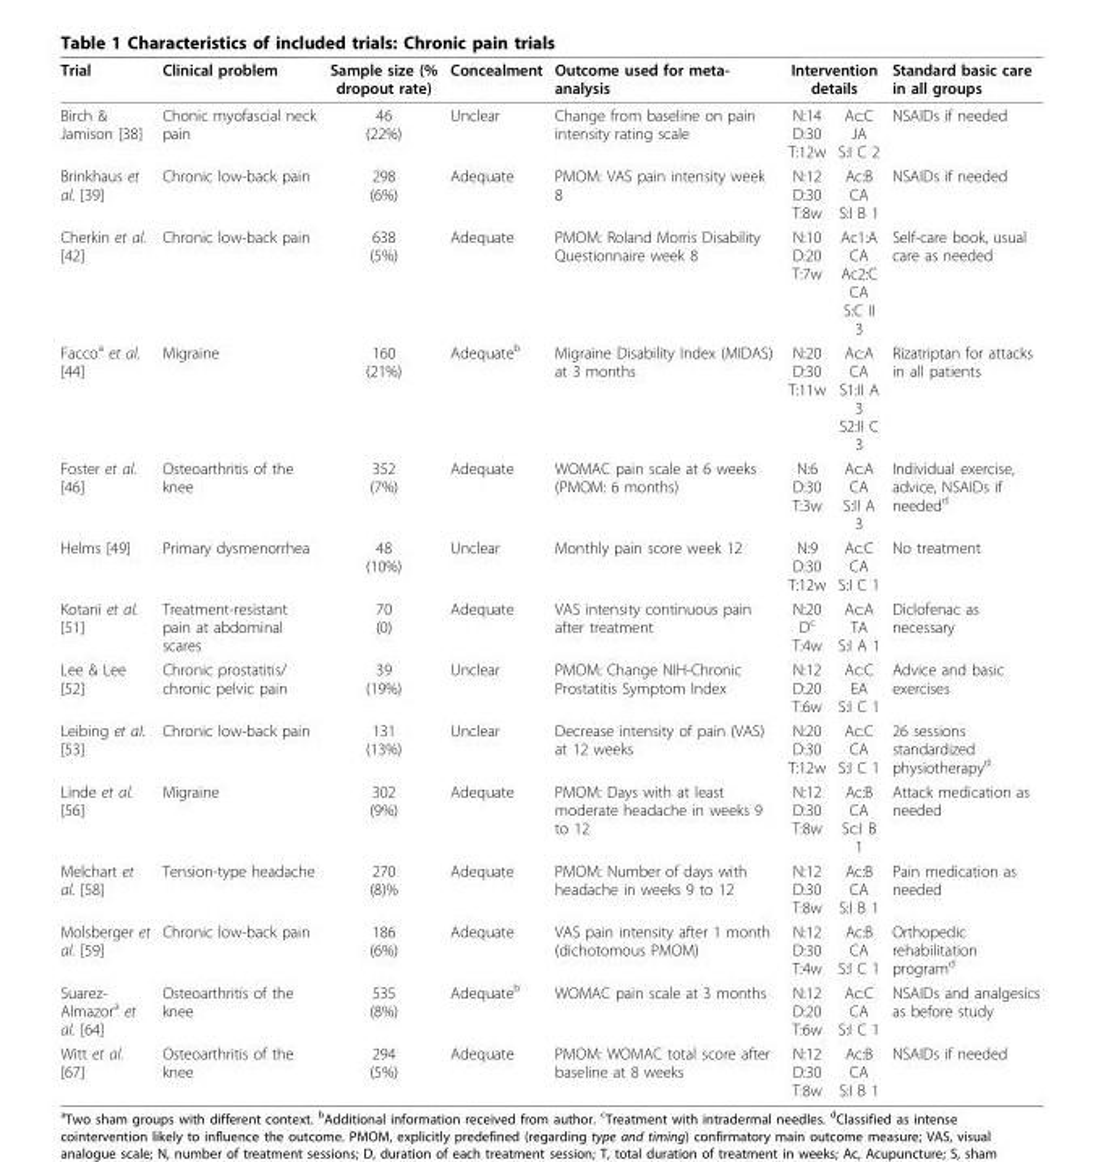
<table><thead><tr><td rowspan="2">Trial Birch &amp; Jamison [38]</td><td rowspan="2">Clinical problem Chonic myofascial neck pain</td><td rowspan="2">Sample size (% dropout rate) 46 (22%)</td><td rowspan="2">Concealment Unclear</td><td rowspan="2">Outcome used for meta- analysis Change from baseline on pain intensity rating scale</td><td colspan="2">Intervention details</td><td rowspan="2">Standard basic care in all groups NSAIDs if needed</td></tr><tr><td>N:14 D:30 T:12w</td><td>Ac:C JA S:I C 2</td></tr></thead><tbody><tr><td>Brinkhaus et al. [39]</td><td>Chronic low-back pain</td><td>298 (6%)</td><td>Adequate</td><td>PMOM: VAS pain intensity week 8</td><td>N:12 D:30 T:8w</td><td>Ac:B CA S:I B 1</td><td>NSAIDs if needed</td></tr><tr><td>Cherkin et al. [42]</td><td>Chronic low-back pain</td><td>638 (5%)</td><td>Adequate</td><td>PMOM: Roland Morris Disability Questionnaire week 8</td><td>N:10 D:20 T:7w</td><td>Ac1:A CA Ac2:C CA S:C II 3</td><td>Self-care book, usual care as needed</td></tr><tr><td>Facco<sup>a</sup> et al. [44]</td><td>Migraine</td><td>160 (21%)</td><td>Adequate<sup>b</sup></td><td>Migraine Disability Index (MIDAS) at 3 months</td><td>N:20 D:30 T:11w</td><td>Ac:A CA S1:II A 3 S2:II C 3</td><td>Rizatriptan for attacks in all patients</td></tr><tr><td>Foster et al. [46]</td><td>Osteoarthritis of the knee</td><td>352 (7%)</td><td>Adequate</td><td>WOMAC pain scale at 6 weeks (PMOM: 6 months)</td><td>N:6 D:30 T:3w</td><td>Ac:A CA S:II A 3</td><td>Individual exercise, advice, NSAIDs if needed<sup>d</sup></td></tr><tr><td>Helms [49]</td><td>Primary dysmenorrhea</td><td>48 (10%)</td><td>Unclear</td><td>Monthly pain score week 12</td><td>N:9 D:30 T:12w</td><td>Ac:C CA S:I C 1</td><td>No treatment</td></tr><tr><td>Kotani et al. [51]</td><td>Treatment-resistant pain at abdominal scares</td><td>70 (0)</td><td>Adequate</td><td>VAS intensity continuous pain after treatment</td><td>N:20 D<sup>c</sup> T:4w</td><td>Ac:A TA S:I A 1</td><td>Diclofenac as necessary</td></tr><tr><td>Lee &amp; Lee [52]</td><td>Chronic prostatitis/ chronic pelvic pain</td><td>39 (19%)</td><td>Unclear</td><td>PMOM: Change NIH-Chronic Prostatitis Symptom Index</td><td>N:12 D:20 T:6w</td><td>Ac:C EA S:I C 1</td><td>Advice and basic exercises</td></tr><tr><td>Leibing et al. [53]</td><td>Chronic low-back pain</td><td>131 (13%)</td><td>Unclear</td><td>Decrease intensity of pain (VAS) at 12 weeks</td><td>N:20 D:30 T:12w</td><td>Ac:C CA S:I C 1</td><td>26 sessions standardized physiotherapy<sup>d</sup></td></tr><tr><td>Linde et al. [56]</td><td>Migraine</td><td>302 (9%)</td><td>Adequate</td><td>PMOM: Days with at least moderate headache in weeks 9 to 12</td><td>N:12 D:30 T:8w</td><td>Ac:B CA Sc:I B 1</td><td>Attack medication as needed</td></tr><tr><td>Melchart et al. [58]</td><td>Tension-type headache</td><td>270 (8)%</td><td>Adequate</td><td>PMOM: Number of days with headache in weeks 9 to 12</td><td>N:12 D:30 T:8w</td><td>Ac:B CA S:I B 1</td><td>Pain medication as needed</td></tr><tr><td>Molsberger et al. [59]</td><td>Chronic low-back pain</td><td>186 (6%)</td><td>Adequate</td><td>VAS pain intensity after 1 month (dichotomous PMOM)</td><td>N:12 D:30 T:4w</td><td>Ac:B CA S:I C 1</td><td>Orthopedic rehabilitation program<sup>d</sup></td></tr><tr><td>Suarez- Almazor<sup>a</sup> et al. [64]</td><td>Osteoarthritis of the knee</td><td>535 (8%)</td><td>Adequate<sup>b</sup></td><td>WOMAC pain scale at 3 months</td><td>N:12 D:20 T:6w</td><td>Ac:C CA S:I C 1</td><td>NSAIDs and analgesics as before study</td></tr><tr><td>Witt et al. [67]</td><td>Osteoarthritis of the knee</td><td>294 (5%)</td><td>Adequate</td><td>PMOM: WOMAC total score after baseline at 8 weeks</td><td>N:12 D:30 T:8w</td><td>Ac:B CA S:I B 1</td><td>NSAIDs if needed</td></tr></tbody></table>